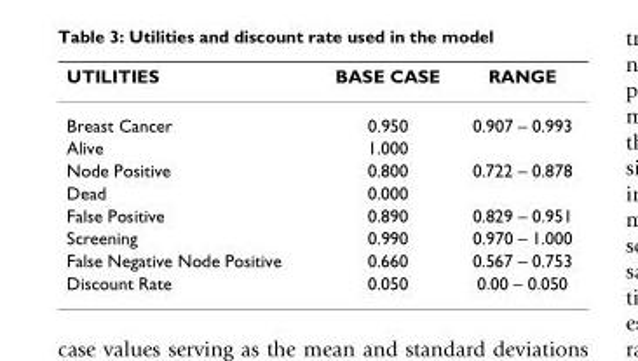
<table><thead><tr><td>UTILITIES</td><td>BASE CASE</td><td>RANGE</td></tr></thead><tbody><tr><td>Breast Cancer</td><td>0.950</td><td>0.907 – 0.993</td></tr><tr><td>Alive</td><td>1.000</td><td></td></tr><tr><td>Node Positive</td><td>0.800</td><td>0.722 – 0.878</td></tr><tr><td>Dead</td><td>0.000</td><td></td></tr><tr><td>False Positive</td><td>0.890</td><td>0.829 – 0.951</td></tr><tr><td>Screening</td><td>0.990</td><td>0.970 – 1.000</td></tr><tr><td>False Negative Node Positive</td><td>0.660</td><td>0.567 – 0.753</td></tr><tr><td>Discount Rate</td><td>0.050</td><td>0.00 – 0.050</td></tr></tbody></table>